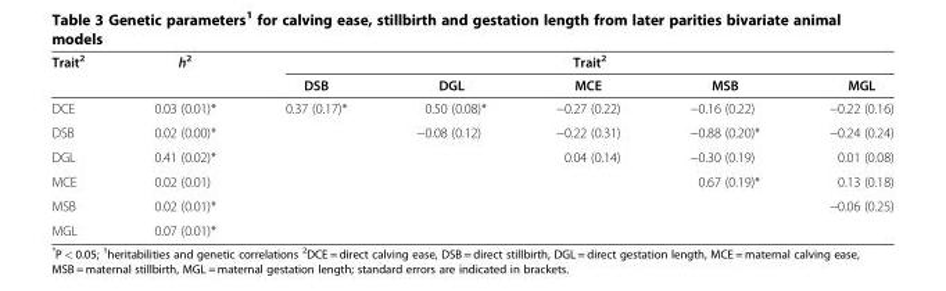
<table><thead><tr><td rowspan="2">Trait<sup>2</sup></td><td rowspan="2">h<sup>2</sup></td><td colspan="5">Trait<sup>2</sup></td></tr><tr><td>DSB</td><td>DGL</td><td>MCE</td><td>MSB</td><td>MGL</td></tr></thead><tbody><tr><td>DCE</td><td>0.03 (0.01)*</td><td>0.37 (0.17)*</td><td>0.50 (0.08)*</td><td>−0.27 (0.22)</td><td>−0.16 (0.22)</td><td>−0.22 (0.16)</td></tr><tr><td>DSB</td><td>0.02 (0.00)*</td><td></td><td>−0.08 (0.12)</td><td>−0.22 (0.31)</td><td>−0.88 (0.20)*</td><td>−0.24 (0.24)</td></tr><tr><td>DGL</td><td>0.41 (0.02)*</td><td></td><td></td><td>0.04 (0.14)</td><td>−0.30 (0.19)</td><td>0.01 (0.08)</td></tr><tr><td>MCE</td><td>0.02 (0.01)</td><td></td><td></td><td></td><td>0.67 (0.19)*</td><td>0.13 (0.18)</td></tr><tr><td>MSB</td><td>0.02 (0.01)*</td><td></td><td></td><td></td><td></td><td>−0.06 (0.25)</td></tr><tr><td>MGL</td><td>0.07 (0.01)*</td><td></td><td></td><td></td><td></td><td></td></tr></tbody></table>